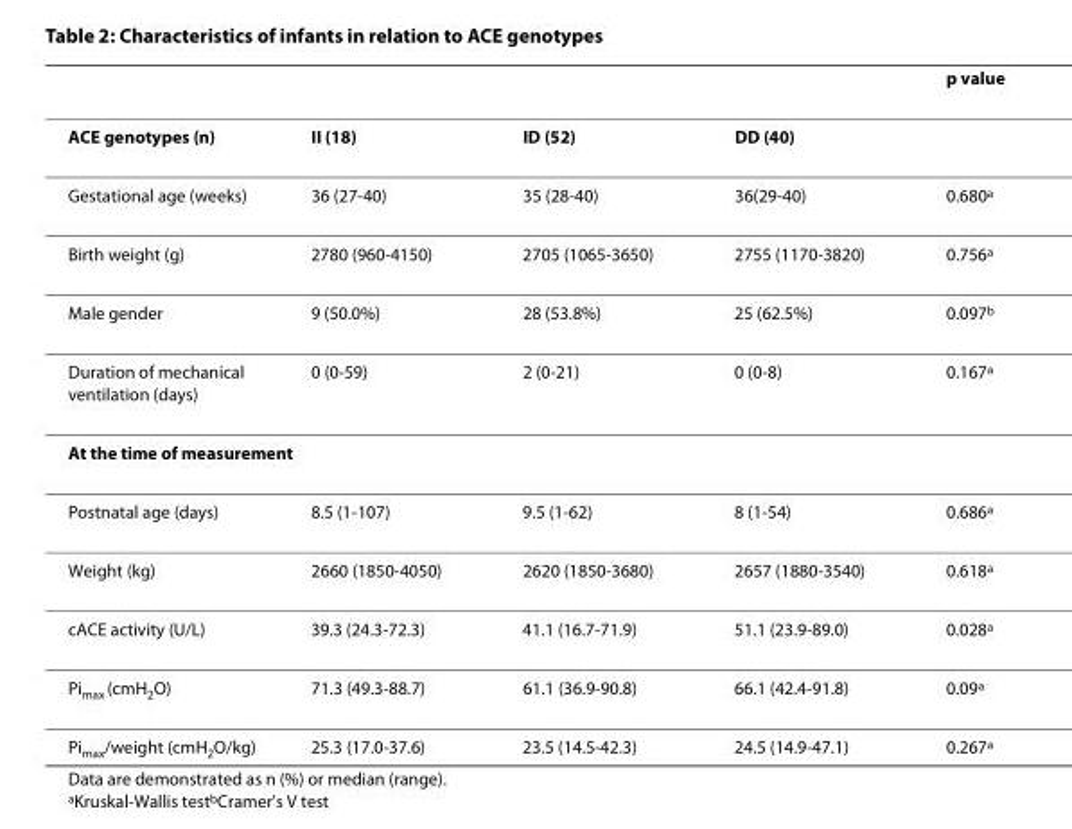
<table><thead><tr><td></td><td></td><td></td><td></td><td>p value</td></tr></thead><tbody><tr><td>ACE genotypes (n)</td><td>II (18)</td><td>ID (52)</td><td>DD (40)</td><td></td></tr><tr><td>Gestational age (weeks)</td><td>36 (27-40)</td><td>35 (28-40)</td><td>36(29-40)</td><td>0.680<sup>a</sup></td></tr><tr><td>Birth weight (g)</td><td>2780 (960-4150)</td><td>2705 (1065-3650)</td><td>2755 (1170-3820)</td><td>0.756<sup>a</sup></td></tr><tr><td>Male gender</td><td>9 (50.0%)</td><td>28 (53.8%)</td><td>25 (62.5%)</td><td>0.097<sup>b</sup></td></tr><tr><td>Duration of mechanical ventilation (days)</td><td>0 (0-59)</td><td>2 (0-21)</td><td>0 (0-8)</td><td>0.167<sup>a</sup></td></tr><tr><td colspan="5">At the time of measurement</td></tr><tr><td>Postnatal age (days)</td><td>8.5 (1-107)</td><td>9.5 (1-62)</td><td>8 (1-54)</td><td>0.686<sup>a</sup></td></tr><tr><td>Weight (kg)</td><td>2660 (1850-4050)</td><td>2620 (1850-3680)</td><td>2657 (1880-3540)</td><td>0.618<sup>a</sup></td></tr><tr><td>cACE activity (U/L)</td><td>39.3 (24.3-72.3)</td><td>41.1 (16.7-71.9)</td><td>51.1 (23.9-89.0)</td><td>0.028<sup>a</sup></td></tr><tr><td>Pi<sub>max</sub> (cmH<sub>2</sub>O)</td><td>71.3 (49.3-88.7)</td><td>61.1 (36.9-90.8)</td><td>66.1 (42.4-91.8)</td><td>0.09<sup>a</sup></td></tr><tr><td>Pi<sub>max</sub>/weight (cmH<sub>2</sub>O/kg)</td><td>25.3 (17.0-37.6)</td><td>23.5 (14.5-42.3)</td><td>24.5 (14.9-47.1)</td><td>0.267<sup>a</sup></td></tr></tbody></table>